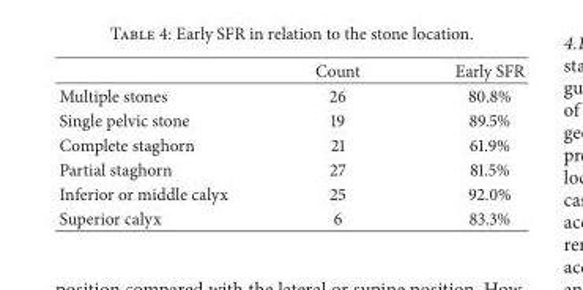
<table><thead><tr><td></td><td>Count</td><td>Early SFR</td></tr></thead><tbody><tr><td>Multiple stones</td><td>26</td><td>80.8%</td></tr><tr><td>Single pelvic stone</td><td>19</td><td>89.5%</td></tr><tr><td>Complete staghorn</td><td>21</td><td>61.9%</td></tr><tr><td>Partial staghorn</td><td>27</td><td>81.5%</td></tr><tr><td>Inferior or middle calyx</td><td>25</td><td>92.0%</td></tr><tr><td>Superior calyx</td><td>6</td><td>83.3%</td></tr></tbody></table>